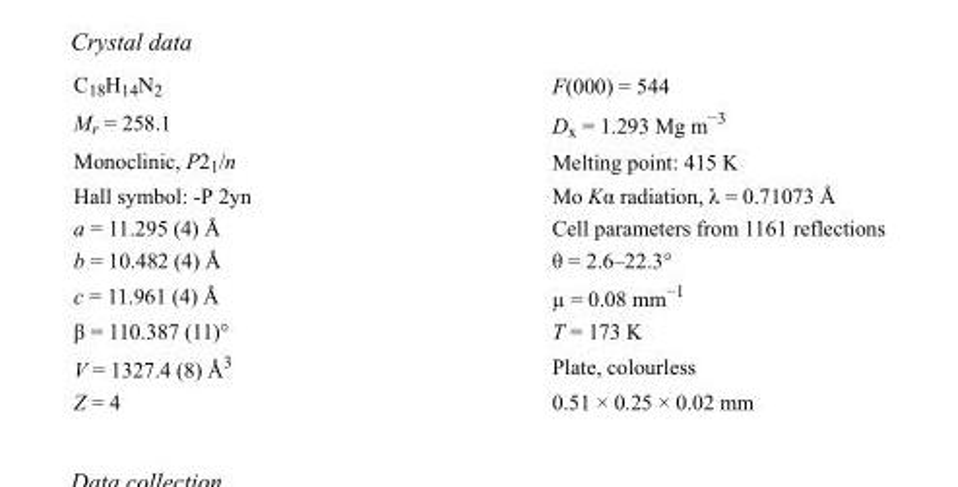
<table><tbody><tr><td>C<sub>18</sub>H<sub>14</sub>N<sub>2</sub></td><td>F(000) = 544</td></tr><tr><td>M<sub>r</sub> = 258.1</td><td>D<sub>x</sub> = 1.293 Mg m<sup>−3</sup></td></tr><tr><td>Monoclinic, P2<sub>1</sub>/n</td><td>Melting point: 415 K</td></tr><tr><td>Hall symbol: -P 2yn</td><td>Mo Kα radiation, λ = 0.71073 Å</td></tr><tr><td>a = 11.295 (4) Å</td><td>Cell parameters from 1161 reflections</td></tr><tr><td>b = 10.482 (4) Å</td><td>θ = 2.6–22.3°</td></tr><tr><td>c = 11.961 (4) Å</td><td>µ = 0.08 mm<sup>−1</sup></td></tr><tr><td>β = 110.387 (11)°</td><td>T = 173 K</td></tr><tr><td>V = 1327.4 (8) Å<sup>3</sup></td><td>Plate, colourless</td></tr><tr><td>Z = 4</td><td>0.51 × 0.25 × 0.02 mm</td></tr></tbody></table>